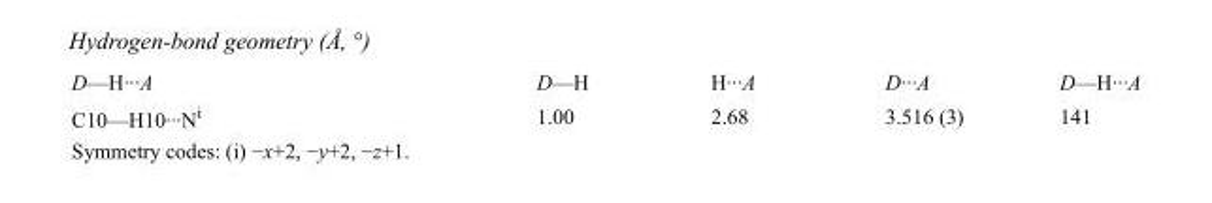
<table><tbody><tr><td>D—H···A</td><td>D—H</td><td>H···A</td><td>D···A</td><td>D—H···A</td></tr><tr><td>C10—H10···N<sup>i</sup></td><td>1.00</td><td>2.68</td><td>3.516 (3)</td><td>141</td></tr></tbody></table>